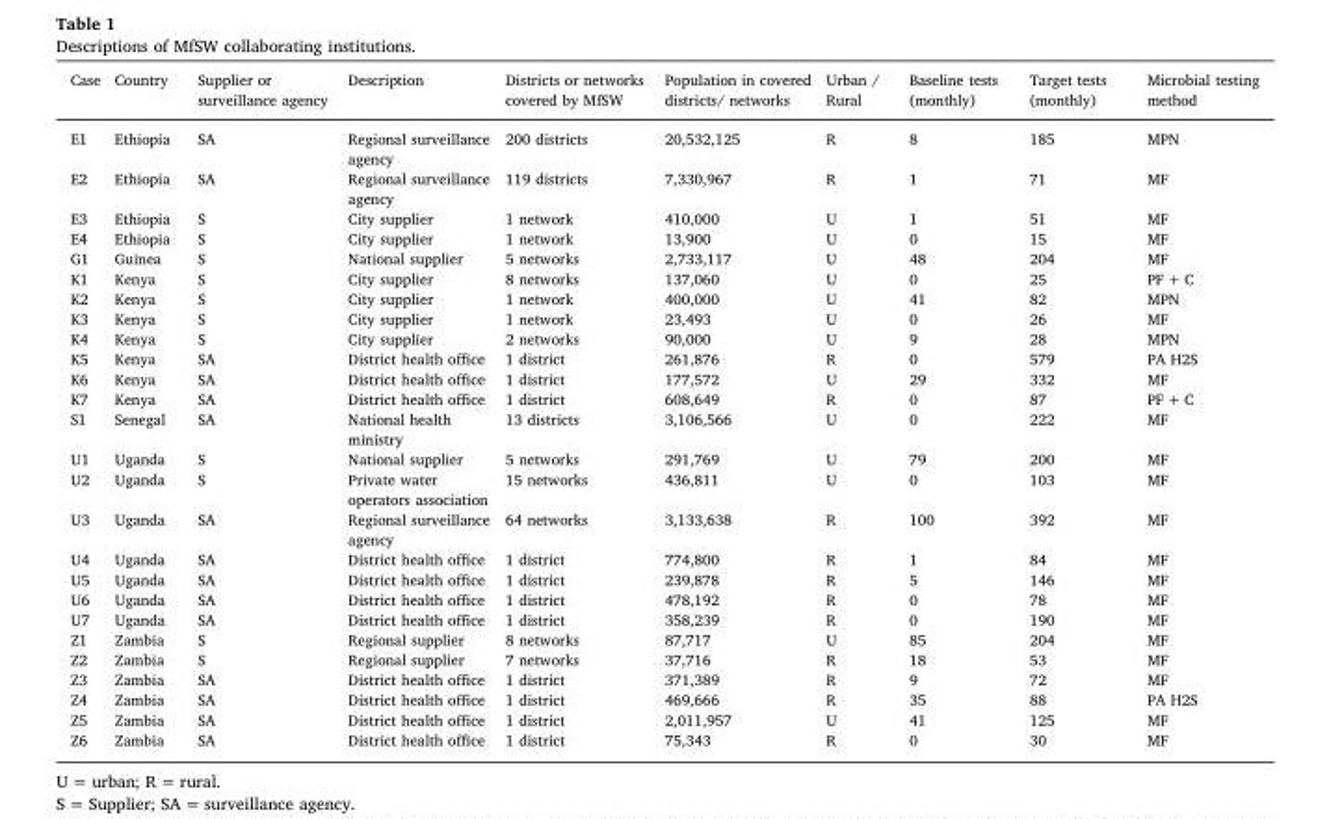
<table><thead><tr><td>Case</td><td>Country</td><td>Supplier or surveillance agency</td><td>Description</td><td>Districts or networks covered by MfSW</td><td>Population in covered districts/ networks</td><td>Urban / Rural</td><td>Baseline tests (monthly)</td><td>Target tests (monthly)</td><td>Microbial testing method</td></tr></thead><tbody><tr><td>E1</td><td>Ethiopia</td><td>SA</td><td>Regional surveillance agency</td><td>200 districts</td><td>20,532,125</td><td>R</td><td>8</td><td>185</td><td>MPN</td></tr><tr><td>E2</td><td>Ethiopia</td><td>SA</td><td>Regional surveillance agency</td><td>119 districts</td><td>7,330,967</td><td>R</td><td>1</td><td>71</td><td>MF</td></tr><tr><td>E3</td><td>Ethiopia</td><td>S</td><td>City supplier</td><td>1 network</td><td>410,000</td><td>U</td><td>1</td><td>51</td><td>MF</td></tr><tr><td>E4</td><td>Ethiopia</td><td>S</td><td>City supplier</td><td>1 network</td><td>13,900</td><td>U</td><td>0</td><td>15</td><td>MF</td></tr><tr><td>G1</td><td>Guinea</td><td>S</td><td>National supplier</td><td>5 networks</td><td>2,733,117</td><td>U</td><td>48</td><td>204</td><td>MF</td></tr><tr><td>K1</td><td>Kenya</td><td>S</td><td>City supplier</td><td>8 networks</td><td>137,060</td><td>U</td><td>0</td><td>25</td><td>PF + C</td></tr><tr><td>K2</td><td>Kenya</td><td>S</td><td>City supplier</td><td>1 network</td><td>400,000</td><td>U</td><td>41</td><td>82</td><td>MPN</td></tr><tr><td>K3</td><td>Kenya</td><td>S</td><td>City supplier</td><td>1 network</td><td>23,493</td><td>U</td><td>0</td><td>26</td><td>MF</td></tr><tr><td>K4</td><td>Kenya</td><td>S</td><td>City supplier</td><td>2 networks</td><td>90,000</td><td>U</td><td>9</td><td>28</td><td>MPN</td></tr><tr><td>K5</td><td>Kenya</td><td>SA</td><td>District health office</td><td>1 district</td><td>261,876</td><td>R</td><td>0</td><td>579</td><td>PA H2S</td></tr><tr><td>K6</td><td>Kenya</td><td>SA</td><td>District health office</td><td>1 district</td><td>177,572</td><td>U</td><td>29</td><td>332</td><td>MF</td></tr><tr><td>K7</td><td>Kenya</td><td>SA</td><td>District health office</td><td>1 district</td><td>608,649</td><td>R</td><td>0</td><td>87</td><td>PF + C</td></tr><tr><td>S1</td><td>Senegal</td><td>SA</td><td>National health ministry</td><td>13 districts</td><td>3,106,566</td><td>U</td><td>0</td><td>222</td><td>MF</td></tr><tr><td>U1</td><td>Uganda</td><td>S</td><td>National supplier</td><td>5 networks</td><td>291,769</td><td>U</td><td>79</td><td>200</td><td>MF</td></tr><tr><td>U2</td><td>Uganda</td><td>S</td><td>Private water operators association</td><td>15 networks</td><td>436,811</td><td>U</td><td>0</td><td>103</td><td>MF</td></tr><tr><td>U3</td><td>Uganda</td><td>SA</td><td>Regional surveillance agency</td><td>64 networks</td><td>3,133,638</td><td>R</td><td>100</td><td>392</td><td>MF</td></tr><tr><td>U4</td><td>Uganda</td><td>SA</td><td>District health office</td><td>1 district</td><td>774,800</td><td>R</td><td>1</td><td>84</td><td>MF</td></tr><tr><td>U5</td><td>Uganda</td><td>SA</td><td>District health office</td><td>1 district</td><td>239,878</td><td>R</td><td>5</td><td>146</td><td>MF</td></tr><tr><td>U6</td><td>Uganda</td><td>SA</td><td>District health office</td><td>1 district</td><td>478,192</td><td>R</td><td>0</td><td>78</td><td>MF</td></tr><tr><td>U7</td><td>Uganda</td><td>SA</td><td>District health office</td><td>1 district</td><td>358,239</td><td>R</td><td>0</td><td>190</td><td>MF</td></tr><tr><td>Z1</td><td>Zambia</td><td>S</td><td>Regional supplier</td><td>8 networks</td><td>87,717</td><td>U</td><td>85</td><td>204</td><td>MF</td></tr><tr><td>Z2</td><td>Zambia</td><td>S</td><td>Regional supplier</td><td>7 networks</td><td>37,716</td><td>R</td><td>18</td><td>53</td><td>MF</td></tr><tr><td>Z3</td><td>Zambia</td><td>SA</td><td>District health office</td><td>1 district</td><td>371,389</td><td>R</td><td>9</td><td>72</td><td>MF</td></tr><tr><td>Z4</td><td>Zambia</td><td>SA</td><td>District health office</td><td>1 district</td><td>469,666</td><td>R</td><td>35</td><td>88</td><td>PA H2S</td></tr><tr><td>Z5</td><td>Zambia</td><td>SA</td><td>District health office</td><td>1 district</td><td>2,011,957</td><td>U</td><td>41</td><td>125</td><td>MF</td></tr><tr><td>Z6</td><td>Zambia</td><td>SA</td><td>District health office</td><td>1 district</td><td>75,343</td><td>R</td><td>0</td><td>30</td><td>MF</td></tr></tbody></table>